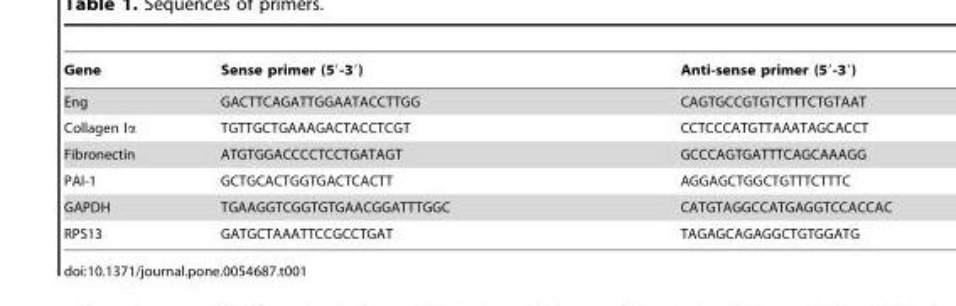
<table><thead><tr><td>Gene</td><td>Sense primer (5′-3′)</td><td>Anti-sense primer (5′-3′)</td></tr></thead><tbody><tr><td>Eng</td><td>GACTTCAGATTGGAATACCTTGG</td><td>CAGTGCCGTGTCTTTCTGTAAT</td></tr><tr><td>Collagen Iα</td><td>TGTTGCTGAAAGACTACCTCGT</td><td>CCTCCCATGTTAAATAGCACCT</td></tr><tr><td>Fibronectin</td><td>ATGTGGACCCCTCCTGATAGT</td><td>GCCCAGTGATTTCAGCAAAGG</td></tr><tr><td>PAI-1</td><td>GCTGCACTGGTGACTCACTT</td><td>AGGAGCTGGCTGTTTCTTTC</td></tr><tr><td>GAPDH</td><td>TGAAGGTCGGTGTGAACGGATTTGGC</td><td>CATGTAGGCCATGAGGTCCACCAC</td></tr><tr><td>RPS13</td><td>GATGCTAAATTCCGCCTGAT</td><td>TAGAGCAGAGGCTGTGGATG</td></tr></tbody></table>